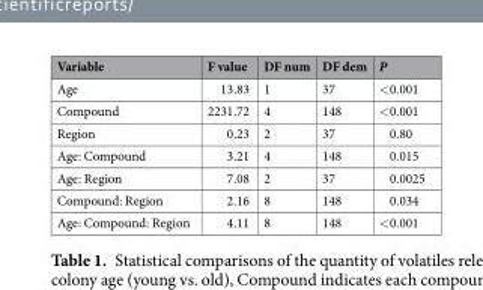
<table><thead><tr><td>Variable</td><td>F value</td><td>DF num</td><td>DF dem</td><td>P</td></tr></thead><tbody><tr><td>Age</td><td>13.83</td><td>1</td><td>37</td><td>&lt;0.001</td></tr><tr><td>Compound</td><td>2231.72</td><td>4</td><td>148</td><td>&lt;0.001</td></tr><tr><td>Region</td><td>0.23</td><td>2</td><td>37</td><td>0.80</td></tr><tr><td>Age: Compound</td><td>3.21</td><td>4</td><td>148</td><td>0.015</td></tr><tr><td>Age: Region</td><td>7.08</td><td>2</td><td>37</td><td>0.0025</td></tr><tr><td>Compound: Region</td><td>2.16</td><td>8</td><td>148</td><td>0.034</td></tr><tr><td>Age: Compound: Region</td><td>4.11</td><td>8</td><td>148</td><td>&lt;0.001</td></tr></tbody></table>